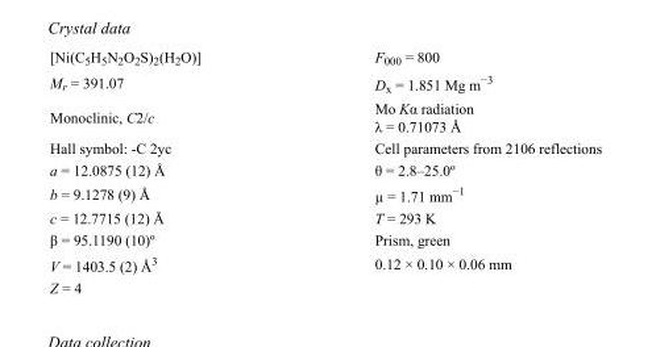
<table><tbody><tr><td>[Ni(C<sub>5</sub>H<sub>5</sub>N<sub>2</sub>O<sub>2</sub>S)<sub>2</sub>(H<sub>2</sub>O)]</td><td>F000 = 800</td></tr><tr><td>M<sub>r</sub> = 391.07</td><td>D<sub>x</sub> = 1.851 Mg m<sup>−3</sup></td></tr><tr><td>Monoclinic, C2/c</td><td>Mo Kα radiation λ = 0.71073 Å</td></tr><tr><td>Hall symbol: -C 2yc</td><td>Cell parameters from 2106 reflections</td></tr><tr><td>a = 12.0875 (12) Å</td><td>θ = 2.8–25.0º</td></tr><tr><td>b = 9.1278 (9) Å</td><td>µ = 1.71 mm<sup>−1</sup></td></tr><tr><td>c = 12.7715 (12) Å</td><td>T = 293 K</td></tr><tr><td>β = 95.1190 (10)º</td><td>Prism, green</td></tr><tr><td>V = 1403.5 (2) Å<sup>3</sup></td><td>0.12 × 0.10 × 0.06 mm</td></tr><tr><td>Z = 4</td><td></td></tr></tbody></table>